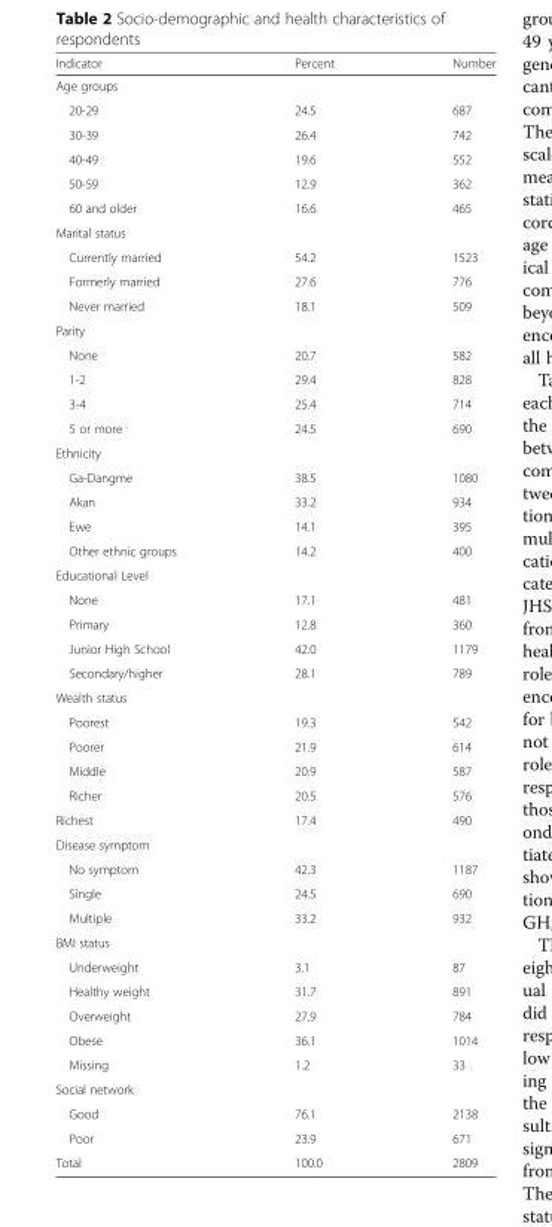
<table><thead><tr><td>Indicator</td><td>Percent</td><td>Number</td></tr></thead><tbody><tr><td colspan="3">Age groups</td></tr><tr><td>20-29</td><td>24.5</td><td>687</td></tr><tr><td>30-39</td><td>26.4</td><td>742</td></tr><tr><td>40-49</td><td>19.6</td><td>552</td></tr><tr><td>50-59</td><td>12.9</td><td>362</td></tr><tr><td>60 and older</td><td>16.6</td><td>465</td></tr><tr><td colspan="3">Marital status</td></tr><tr><td>Currently married</td><td>54.2</td><td>1523</td></tr><tr><td>Formerly married</td><td>27.6</td><td>776</td></tr><tr><td>Never married</td><td>18.1</td><td>509</td></tr><tr><td colspan="3">Parity</td></tr><tr><td>None</td><td>20.7</td><td>582</td></tr><tr><td>1-2</td><td>29.4</td><td>828</td></tr><tr><td>3-4</td><td>25.4</td><td>714</td></tr><tr><td>5 or more</td><td>24.5</td><td>690</td></tr><tr><td colspan="3">Ethnicity</td></tr><tr><td>Ga-Dangme</td><td>38.5</td><td>1080</td></tr><tr><td>Akan</td><td>33.2</td><td>934</td></tr><tr><td>Ewe</td><td>14.1</td><td>395</td></tr><tr><td>Other ethnic groups</td><td>14.2</td><td>400</td></tr><tr><td colspan="3">Educational Level</td></tr><tr><td>None</td><td>17.1</td><td>481</td></tr><tr><td>Primary</td><td>12.8</td><td>360</td></tr><tr><td>Junior High School</td><td>42.0</td><td>1179</td></tr><tr><td>Secondary/higher</td><td>28.1</td><td>789</td></tr><tr><td colspan="3">Wealth status</td></tr><tr><td>Poorest</td><td>19.3</td><td>542</td></tr><tr><td>Poorer</td><td>21.9</td><td>614</td></tr><tr><td>Middle</td><td>20.9</td><td>587</td></tr><tr><td>Richer</td><td>20.5</td><td>576</td></tr><tr><td>Richest</td><td>17.4</td><td>490</td></tr><tr><td colspan="3">Disease symptom</td></tr><tr><td>No symptom</td><td>42.3</td><td>1187</td></tr><tr><td>Single</td><td>24.5</td><td>690</td></tr><tr><td>Multiple</td><td>33.2</td><td>932</td></tr><tr><td colspan="3">BMI status</td></tr><tr><td>Underweight</td><td>3.1</td><td>87</td></tr><tr><td>Healthy weight</td><td>31.7</td><td>891</td></tr><tr><td>Overweight</td><td>27.9</td><td>784</td></tr><tr><td>Obese</td><td>36.1</td><td>1014</td></tr><tr><td>Missing</td><td>1.2</td><td>33</td></tr><tr><td colspan="3">Social network</td></tr><tr><td>Good</td><td>76.1</td><td>2138</td></tr><tr><td>Poor</td><td>23.9</td><td>671</td></tr><tr><td>Total</td><td>100.0</td><td>2809</td></tr></tbody></table>